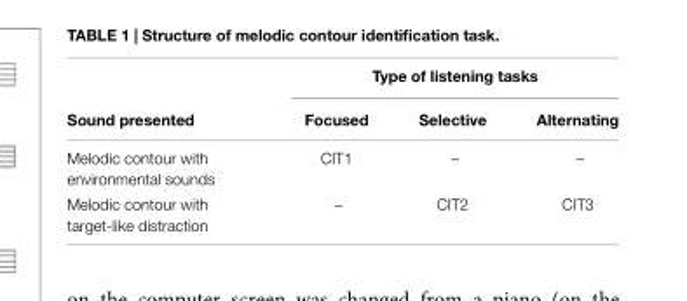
<table><thead><tr><td rowspan="2">Sound presented</td><td colspan="3">Type of listening tasks</td></tr><tr><td>Focused</td><td>Selective</td><td>Alternating</td></tr></thead><tbody><tr><td>Melodic contour with</td><td>CIT1</td><td>–</td><td>–</td></tr><tr><td colspan="4">environmental sounds</td></tr><tr><td>Melodic contour with</td><td>–</td><td>CIT2</td><td>CIT3</td></tr><tr><td>target-like distraction</td><td></td><td></td><td></td></tr></tbody></table>